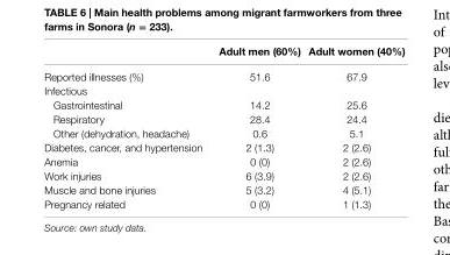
<table><thead><tr><td></td><td>adult men (60%)</td><td>adult women (40%)</td></tr></thead><tbody><tr><td>Reported illnesses (%)</td><td>51.6</td><td>67.9</td></tr><tr><td colspan="3">Infectious</td></tr><tr><td>Gastrointestinal</td><td>14.2</td><td>25.6</td></tr><tr><td>Respiratory</td><td>28.4</td><td>24.4</td></tr><tr><td>Other (dehydration, headache)</td><td>0.6</td><td>5.1</td></tr><tr><td>Diabetes, cancer, and hypertension</td><td>2 (1.3)</td><td>2 (2.6)</td></tr><tr><td>Anemia</td><td>0 (0)</td><td>2 (2.6)</td></tr><tr><td>Work injuries</td><td>6 (3.9)</td><td>2 (2.6)</td></tr><tr><td>Muscle and bone injuries</td><td>5 (3.2)</td><td>4 (5.1)</td></tr><tr><td>Pregnancy related</td><td>0 (0)</td><td>1 (1.3)</td></tr></tbody></table>